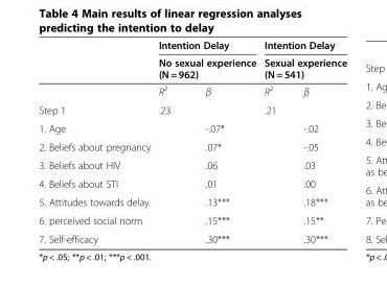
<table><thead><tr><td rowspan="3"></td><td rowspan="2" colspan="2">Intention Delay No sexual experience (N = 962)</td><td rowspan="2" colspan="2">Intention Delay Sexual experience (N = 541)</td></tr><tr></tr><tr><td>R<sup>2</sup></td><td>β</td><td>R<sup>2</sup></td><td>β</td></tr></thead><tbody><tr><td>Step 1</td><td>.23</td><td></td><td>.21</td><td></td></tr><tr><td>1. Age</td><td></td><td>-.07*</td><td></td><td>-.02</td></tr><tr><td>2. Beliefs about pregnancy</td><td></td><td>.07*</td><td></td><td>-.05</td></tr><tr><td>3. Beliefs about HIV</td><td></td><td>.06</td><td></td><td>.03</td></tr><tr><td>4. Beliefs about STI</td><td></td><td>.01</td><td></td><td>.00</td></tr><tr><td>5. Attitudes towards delay</td><td></td><td>.13***</td><td></td><td>.18***</td></tr><tr><td>6. perceived social norm</td><td></td><td>.15***</td><td></td><td>.15**</td></tr><tr><td>7. Self-efficacy</td><td></td><td>.30***</td><td></td><td>.30***</td></tr></tbody></table>